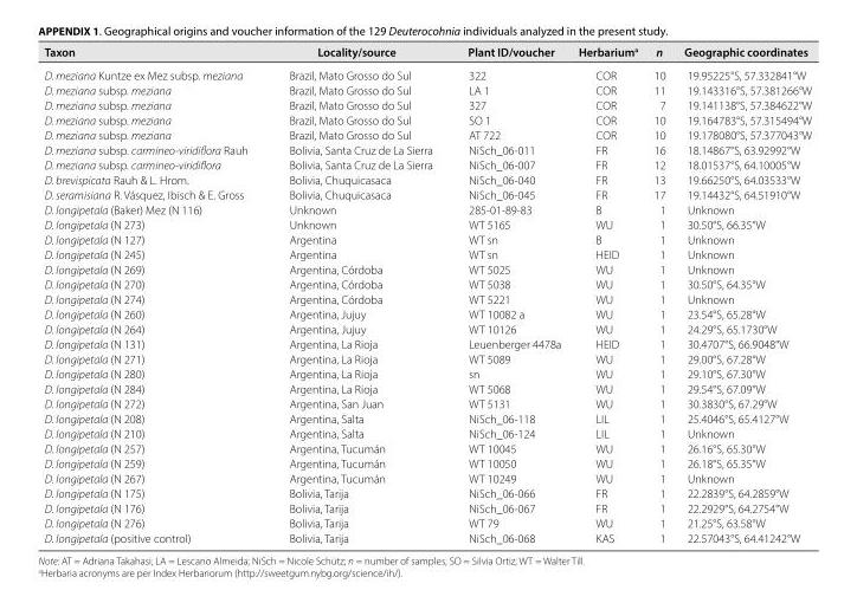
<table><thead><tr><td>Taxon</td><td>Locality/source</td><td>Plant ID/voucher</td><td>Herbarium<sup>a</sup></td><td>n</td><td>Geographic coordinates</td></tr></thead><tbody><tr><td>D. meziana Kuntze ex Mez subsp. meziana</td><td>Brazil, Mato Grosso do Sul</td><td>322</td><td>COR</td><td>10</td><td>19.95225°S, 57.332841°W</td></tr><tr><td>D. meziana subsp. meziana</td><td>Brazil, Mato Grosso do Sul</td><td>LA 1</td><td>COR</td><td>11</td><td>19.143316°S, 57.381266°W</td></tr><tr><td>D. meziana subsp. meziana</td><td>Brazil, Mato Grosso do Sul</td><td>327</td><td>COR</td><td>7</td><td>19.141138°S, 57.384622°W</td></tr><tr><td>D. meziana subsp. meziana</td><td>Brazil, Mato Grosso do Sul</td><td>SO 1</td><td>COR</td><td>10</td><td>19.164783°S, 57.315494°W</td></tr><tr><td>D. meziana subsp. meziana</td><td>Brazil, Mato Grosso do Sul</td><td>AT 722</td><td>COR</td><td>10</td><td>19.178080°S, 57.377043°W</td></tr><tr><td>D. meziana subsp. carmineo-viridiflora Rauh</td><td>Bolivia, Santa Cruz de La Sierra</td><td>NiSch_06- 011</td><td>FR</td><td>16</td><td>18.14867°S, 63.92992°W</td></tr><tr><td>D. meziana subsp. carmineo-viridiflora</td><td>Bolivia, Santa Cruz de La Sierra</td><td>NiSch_06- 007</td><td>FR</td><td>12</td><td>18.01537°S, 64.10005°W</td></tr><tr><td>D. brevispicata Rauh &amp; L. Hrom.</td><td>Bolivia, Chuquicasaca</td><td>NiSch_06- 040</td><td>FR</td><td>13</td><td>19.66250°S, 64.03533°W</td></tr><tr><td>D. seramisiana R. Vásquez, Ibisch &amp; E. Gross</td><td>Bolivia, Chuquicasaca</td><td>NiSch_06- 045</td><td>FR</td><td>17</td><td>19.14432°S, 64.51910°W</td></tr><tr><td>D. longipetala (Baker) Mez (N 116)</td><td>Unknown</td><td>285- 01- 89- 83</td><td>B</td><td>1</td><td>Unknown</td></tr><tr><td>D. longipetala (N 273)</td><td>Unknown</td><td>WT 5165</td><td>WU</td><td>1</td><td>30.50°S, 66.35°W</td></tr><tr><td>D. longipetala (N 127)</td><td>Argentina</td><td>WT sn</td><td>B</td><td>1</td><td>Unknown</td></tr><tr><td>D. longipetala (N 245)</td><td>Argentina</td><td>WT sn</td><td>HEID</td><td>1</td><td>Unknown</td></tr><tr><td>D. longipetala (N 269)</td><td>Argentina, Córdoba</td><td>WT 5025</td><td>WU</td><td>1</td><td>Unknown</td></tr><tr><td>D. longipetala (N 270)</td><td>Argentina, Córdoba</td><td>WT 5038</td><td>WU</td><td>1</td><td>30.50°S, 64.35°W</td></tr><tr><td>D. longipetala (N 274)</td><td>Argentina, Córdoba</td><td>WT 5221</td><td>WU</td><td>1</td><td>Unknown</td></tr><tr><td>D. longipetala (N 260)</td><td>Argentina, Jujuy</td><td>WT 10082 a</td><td>WU</td><td>1</td><td>23.54°S, 65.28°W</td></tr><tr><td>D. longipetala (N 264)</td><td>Argentina, Jujuy</td><td>WT 10126</td><td>WU</td><td>1</td><td>24.29°S, 65.1730°W</td></tr><tr><td>D. longipetala (N 131)</td><td>Argentina, La Rioja</td><td>Leuenberger 4478a</td><td>HEID</td><td>1</td><td>30.4707°S, 66.9048°W</td></tr><tr><td>D. longipetala (N 271)</td><td>Argentina, La Rioja</td><td>WT 5089</td><td>WU</td><td>1</td><td>29.00°S, 67.28°W</td></tr><tr><td>D. longipetala (N 280)</td><td>Argentina, La Rioja</td><td>sn</td><td>WU</td><td>1</td><td>29.10°S, 67.30°W</td></tr><tr><td>D. longipetala (N 284)</td><td>Argentina, La Rioja</td><td>WT 5068</td><td>WU</td><td>1</td><td>29.54°S, 67.09°W</td></tr><tr><td>D. longipetala (N 272)</td><td>Argentina, San Juan</td><td>WT 5131</td><td>WU</td><td>1</td><td>30.3830°S, 67.29°W</td></tr><tr><td>D. longipetala (N 208)</td><td>Argentina, Salta</td><td>NiSch_06- 118</td><td>LIL</td><td>1</td><td>25.4046°S, 65.4127°W</td></tr><tr><td>D. longipetala (N 210)</td><td>Argentina, Salta</td><td>NiSch_06- 124</td><td>LIL</td><td>1</td><td>Unknown</td></tr><tr><td>D. longipetala (N 257)</td><td>Argentina, Tucumán</td><td>WT 10045</td><td>WU</td><td>1</td><td>26.16°S, 65.30°W</td></tr><tr><td>D. longipetala (N 259)</td><td>Argentina, Tucumán</td><td>WT 10050</td><td>WU</td><td>1</td><td>26.18°S, 65.35°W</td></tr><tr><td>D. longipetala (N 267)</td><td>Argentina, Tucumán</td><td>WT 10249</td><td>WU</td><td>1</td><td>Unknown</td></tr><tr><td>D. longipetala (N 175)</td><td>Bolivia, Tarija</td><td>NiSch_06- 066</td><td>FR</td><td>1</td><td>22.2839°S, 64.2859°W</td></tr><tr><td>D. longipetala (N 176)</td><td>Bolivia, Tarija</td><td>NiSch_06- 067</td><td>FR</td><td>1</td><td>22.2929°S, 64.2754°W</td></tr><tr><td>D. longipetala (N 276)</td><td>Bolivia, Tarija</td><td>WT 79</td><td>WU</td><td>1</td><td>21.25°S, 63.58°W</td></tr><tr><td>D. longipetala (positive control)</td><td>Bolivia, Tarija</td><td>NiSch_06- 068</td><td>KAS</td><td>1</td><td>22.57043°S, 64.41242°W</td></tr></tbody></table>